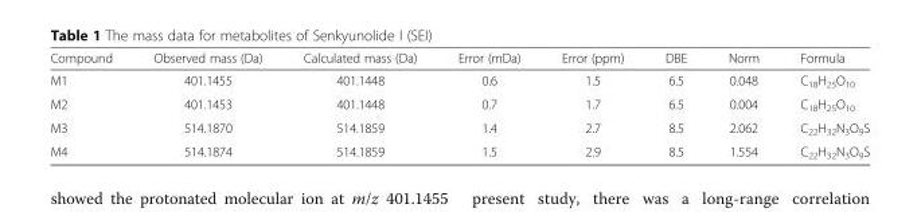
<table><thead><tr><td>Compound</td><td>Observed mass (Da)</td><td>Calculated mass (Da)</td><td>Error (mDa)</td><td>Error (ppm)</td><td>DBE</td><td>Norm</td><td>Formula</td></tr></thead><tbody><tr><td>M1</td><td>401.1455</td><td>401.1448</td><td>0.6</td><td>1.5</td><td>6.5</td><td>0.048</td><td>C<sub>18</sub>H<sub>25</sub>O<sub>10</sub></td></tr><tr><td>M2</td><td>401.1453</td><td>401.1448</td><td>0.7</td><td>1.7</td><td>6.5</td><td>0.004</td><td>C<sub>18</sub>H<sub>25</sub>O<sub>10</sub></td></tr><tr><td>M3</td><td>514.1870</td><td>514.1859</td><td>1.4</td><td>2.7</td><td>8.5</td><td>2.062</td><td>C<sub>22</sub>H<sub>32</sub>N<sub>3</sub>O<sub>9</sub>S</td></tr><tr><td>M4</td><td>514.1874</td><td>514.1859</td><td>1.5</td><td>2.9</td><td>8.5</td><td>1.554</td><td>C<sub>22</sub>H<sub>32</sub>N<sub>3</sub>O<sub>9</sub>S</td></tr></tbody></table>